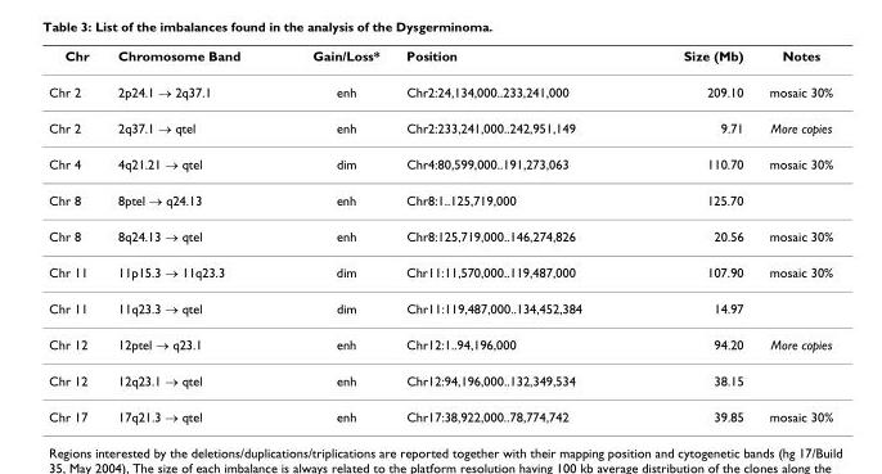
<table><thead><tr><td>Chr</td><td>Chromosome Band</td><td>Gain/Loss*</td><td>Position</td><td>Size (Mb)</td><td>Notes</td></tr></thead><tbody><tr><td>Chr 2</td><td>2p24.1 → 2q37.1</td><td>enh</td><td>Chr2:24,134,000..233,241,000</td><td>209.10</td><td>mosaic 30%</td></tr><tr><td>Chr 2</td><td>2q37.1 → qtel</td><td>enh</td><td>Chr2:233,241,000..242,951,149</td><td>9.71</td><td>More copies</td></tr><tr><td>Chr 4</td><td>4q21.21 → qtel</td><td>dim</td><td>Chr4:80,599,000..191,273,063</td><td>110.70</td><td>mosaic 30%</td></tr><tr><td>Chr 8</td><td>8ptel → q24.13</td><td>enh</td><td>Chr8:1..125,719,000</td><td>125.70</td><td></td></tr><tr><td>Chr 8</td><td>8q24.13 → qtel</td><td>enh</td><td>Chr8:125,719,000..146,274,826</td><td>20.56</td><td>mosaic 30%</td></tr><tr><td>Chr 11</td><td>11p15.3 → 11q23.3</td><td>dim</td><td>Chr11:11,570,000..119,487,000</td><td>107.90</td><td>mosaic 30%</td></tr><tr><td>Chr 11</td><td>11q23.3 → qtel</td><td>dim</td><td>Chr11:119,487,000..134,452,384</td><td>14.97</td><td></td></tr><tr><td>Chr 12</td><td>12ptel → q23.1</td><td>enh</td><td>Chr12:1..94,196,000</td><td>94.20</td><td>More copies</td></tr><tr><td>Chr 12</td><td>12q23.1 → qtel</td><td>enh</td><td>Chr12:94,196,000..132,349,534</td><td>38.15</td><td></td></tr><tr><td>Chr 17</td><td>17q21.3 → qtel</td><td>enh</td><td>Chr17:38,922,000..78,774,742</td><td>39.85</td><td>mosaic 30%</td></tr></tbody></table>